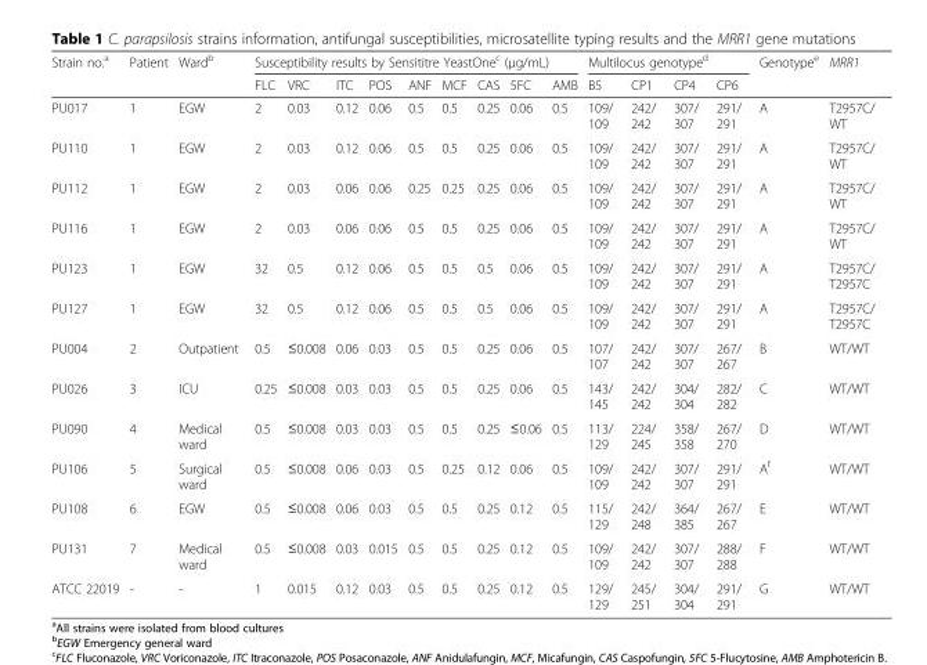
<table><thead><tr><td rowspan="2">Strain no.<sup>a</sup></td><td rowspan="2">Patient</td><td rowspan="2">Ward<sup>b</sup></td><td colspan="9">Susceptibility results by Sensititre YeastOne<sup>c</sup> (μg/mL)</td><td colspan="4">Multilocus genotype<sup>d</sup></td><td rowspan="2">Genotype<sup>e</sup></td><td rowspan="2">MRR1</td></tr><tr><td>FLC</td><td>VRC</td><td>ITC</td><td>POS</td><td>ANF</td><td>MCF</td><td>CAS</td><td>5FC</td><td>AMB</td><td>B5</td><td>CP1</td><td>CP4</td><td>CP6</td></tr></thead><tbody><tr><td>PU017</td><td>1</td><td>EGW</td><td>2</td><td>0.03</td><td>0.12</td><td>0.06</td><td>0.5</td><td>0.5</td><td>0.25</td><td>0.06</td><td>0.5</td><td>109/ 109</td><td>242/ 242</td><td>307/ 307</td><td>291/ 291</td><td>A</td><td>T2957C/ WT</td></tr><tr><td>PU110</td><td>1</td><td>EGW</td><td>2</td><td>0.03</td><td>0.12</td><td>0.06</td><td>0.5</td><td>0.5</td><td>0.25</td><td>0.06</td><td>0.5</td><td>109/ 109</td><td>242/ 242</td><td>307/ 307</td><td>291/ 291</td><td>A</td><td>T2957C/ WT</td></tr><tr><td>PU112</td><td>1</td><td>EGW</td><td>2</td><td>0.03</td><td>0.06</td><td>0.06</td><td>0.25</td><td>0.25</td><td>0.25</td><td>0.06</td><td>0.5</td><td>109/ 109</td><td>242/ 242</td><td>307/ 307</td><td>291/ 291</td><td>A</td><td>T2957C/ WT</td></tr><tr><td>PU116</td><td>1</td><td>EGW</td><td>2</td><td>0.03</td><td>0.06</td><td>0.06</td><td>0.5</td><td>0.5</td><td>0.25</td><td>0.06</td><td>0.5</td><td>109/ 109</td><td>242/ 242</td><td>307/ 307</td><td>291/ 291</td><td>A</td><td>T2957C/ WT</td></tr><tr><td>PU123</td><td>1</td><td>EGW</td><td>32</td><td>0.5</td><td>0.12</td><td>0.06</td><td>0.5</td><td>0.5</td><td>0.5</td><td>0.06</td><td>0.5</td><td>109/ 109</td><td>242/ 242</td><td>307/ 307</td><td>291/ 291</td><td>A</td><td>T2957C/ T2957C</td></tr><tr><td>PU127</td><td>1</td><td>EGW</td><td>32</td><td>0.5</td><td>0.12</td><td>0.06</td><td>0.5</td><td>0.5</td><td>0.5</td><td>0.06</td><td>0.5</td><td>109/ 109</td><td>242/ 242</td><td>307/ 307</td><td>291/ 291</td><td>A</td><td>T2957C/ T2957C</td></tr><tr><td>PU004</td><td>2</td><td>Outpatient</td><td>0.5</td><td>≤0.008</td><td>0.06</td><td>0.03</td><td>0.5</td><td>0.5</td><td>0.25</td><td>0.06</td><td>0.5</td><td>107/ 107</td><td>242/ 242</td><td>307/ 307</td><td>267/ 267</td><td>B</td><td>WT/WT</td></tr><tr><td>PU026</td><td>3</td><td>ICU</td><td>0.25</td><td>≤0.008</td><td>0.03</td><td>0.03</td><td>0.5</td><td>0.5</td><td>0.25</td><td>0.06</td><td>0.5</td><td>143/ 145</td><td>242/ 242</td><td>304/ 304</td><td>282/ 282</td><td>C</td><td>WT/WT</td></tr><tr><td>PU090</td><td>4</td><td>Medical ward</td><td>0.5</td><td>≤0.008</td><td>0.03</td><td>0.03</td><td>0.5</td><td>0.5</td><td>0.25</td><td>≤0.06</td><td>0.5</td><td>113/ 129</td><td>224/ 245</td><td>358/ 358</td><td>267/ 270</td><td>D</td><td>WT/WT</td></tr><tr><td>PU106</td><td>5</td><td>Surgical ward</td><td>0.5</td><td>≤0.008</td><td>0.06</td><td>0.03</td><td>0.5</td><td>0.25</td><td>0.12</td><td>0.06</td><td>0.5</td><td>109/ 109</td><td>242/ 242</td><td>307/ 307</td><td>291/ 291</td><td>A<sup>f</sup></td><td>WT/WT</td></tr><tr><td>PU108</td><td>6</td><td>EGW</td><td>0.5</td><td>≤0.008</td><td>0.06</td><td>0.03</td><td>0.5</td><td>0.5</td><td>0.25</td><td>0.12</td><td>0.5</td><td>115/ 129</td><td>242/ 248</td><td>364/ 385</td><td>267/ 267</td><td>E</td><td>WT/WT</td></tr><tr><td>PU131</td><td>7</td><td>Medical ward</td><td>0.5</td><td>≤0.008</td><td>0.03</td><td>0.015</td><td>0.5</td><td>0.5</td><td>0.25</td><td>0.12</td><td>0.5</td><td>109/ 109</td><td>242/ 242</td><td>307/ 307</td><td>288/ 288</td><td>F</td><td>WT/WT</td></tr><tr><td>ATCC 22019</td><td>-</td><td>-</td><td>1</td><td>0.015</td><td>0.12</td><td>0.03</td><td>0.5</td><td>0.5</td><td>0.25</td><td>0.12</td><td>0.5</td><td>129/ 129</td><td>245/ 251</td><td>304/ 304</td><td>291/ 291</td><td>G</td><td>WT/WT</td></tr></tbody></table>